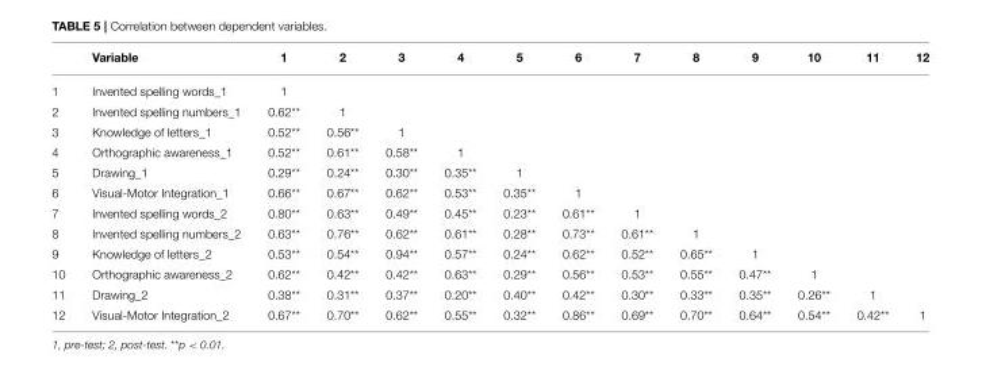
<table><thead><tr><td></td><td>Variable</td><td>1</td><td>2</td><td>3</td><td>4</td><td>5</td><td>6</td><td>7</td><td>8</td><td>9</td><td>10</td><td>11</td><td>12</td></tr></thead><tbody><tr><td>1</td><td>Invented spelling words_1</td><td>1</td><td></td><td></td><td></td><td></td><td></td><td></td><td></td><td></td><td></td><td></td><td></td></tr><tr><td>2</td><td>Invented spelling numbers_1</td><td>0.62**</td><td>1</td><td></td><td></td><td></td><td></td><td></td><td></td><td></td><td></td><td></td><td></td></tr><tr><td>3</td><td>Knowledge of letters_1</td><td>0.52**</td><td>0.56**</td><td>1</td><td></td><td></td><td></td><td></td><td></td><td></td><td></td><td></td><td></td></tr><tr><td>4</td><td>Orthographic awareness_1</td><td>0.52**</td><td>0.61**</td><td>0.58**</td><td>1</td><td></td><td></td><td></td><td></td><td></td><td></td><td></td><td></td></tr><tr><td>5</td><td>Drawing_1</td><td>0.29**</td><td>0.24**</td><td>0.30**</td><td>0.35**</td><td>1</td><td></td><td></td><td></td><td></td><td></td><td></td><td></td></tr><tr><td>6</td><td>Visual-Motor Integration_1</td><td>0.66**</td><td>0.67**</td><td>0.62**</td><td>0.53**</td><td>0.35**</td><td>1</td><td></td><td></td><td></td><td></td><td></td><td></td></tr><tr><td>7</td><td>Invented spelling words_2</td><td>0.80**</td><td>0.63**</td><td>0.49**</td><td>0.45**</td><td>0.23**</td><td>0.61**</td><td>1</td><td></td><td></td><td></td><td></td><td></td></tr><tr><td>8</td><td>Invented spelling numbers_2</td><td>0.63**</td><td>0.76**</td><td>0.62**</td><td>0.61**</td><td>0.28**</td><td>0.73**</td><td>0.61**</td><td>1</td><td></td><td></td><td></td><td></td></tr><tr><td>9</td><td>Knowledge of letters_2</td><td>0.53**</td><td>0.54**</td><td>0.94**</td><td>0.57**</td><td>0.24**</td><td>0.62**</td><td>0.52**</td><td>0.65**</td><td>1</td><td></td><td></td><td></td></tr><tr><td>10</td><td>Orthographic awareness_2</td><td>0.62**</td><td>0.42**</td><td>0.42**</td><td>0.63**</td><td>0.29**</td><td>0.56**</td><td>0.53**</td><td>0.55**</td><td>0.47**</td><td>1</td><td></td><td></td></tr><tr><td>11</td><td>Drawing_2</td><td>0.38**</td><td>0.31**</td><td>0.37**</td><td>0.20**</td><td>0.40**</td><td>0.42**</td><td>0.30**</td><td>0.33**</td><td>0.35**</td><td>0.26**</td><td>1</td><td></td></tr><tr><td>12</td><td>Visual-Motor Integration_2</td><td>0.67**</td><td>0.70**</td><td>0.62**</td><td>0.55**</td><td>0.32**</td><td>0.86**</td><td>0.69**</td><td>0.70**</td><td>0.64**</td><td>0.54**</td><td>0.42**</td><td>1</td></tr></tbody></table>